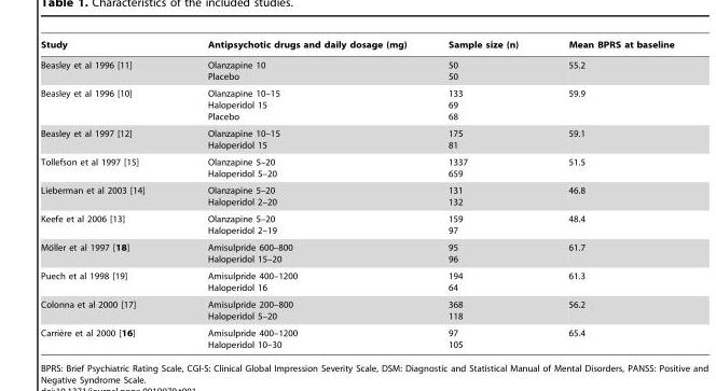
<table><thead><tr><td>Study</td><td>Antipsychotic drugs and daily dosage (mg)</td><td>Sample size (n)</td><td>Mean BPRS at baseline</td></tr></thead><tbody><tr><td>Beasley et al 1996 [11]</td><td>Olanzapine 10 Placebo</td><td>50 50</td><td>55.2</td></tr><tr><td>Beasley et al 1996 [10]</td><td>Olanzapine 10–15 Haloperidol 15 Placebo</td><td>133 69 68</td><td>59.9</td></tr><tr><td>Beasley et al 1997 [12]</td><td>Olanzapine 10–15 Haloperidol 15</td><td>175 81</td><td>59.1</td></tr><tr><td>Tollefson et al 1997 [15]</td><td>Olanzapine 5–20 Haloperidol 5–20</td><td>1337 659</td><td>51.5</td></tr><tr><td>Lieberman et al 2003 [14]</td><td>Olanzapine 5–20 Haloperidol 2–20</td><td>131 132</td><td>46.8</td></tr><tr><td>Keefe et al 2006 [13]</td><td>Olanzapine 5–20 Haloperidol 2–19</td><td>159 97</td><td>48.4</td></tr><tr><td>Mo¨ller et al 1997 [18]</td><td>Amisulpride 600–800 Haloperidol 15–20</td><td>95 96</td><td>61.7</td></tr><tr><td>Puech et al 1998 [19]</td><td>Amisulpride 400–1200 Haloperidol 16</td><td>194 64</td><td>61.3</td></tr><tr><td>Colonna et al 2000 [17]</td><td>Amisulpride 200–800 Haloperidol 5–20</td><td>368 118</td><td>56.2</td></tr><tr><td>Carrie`re et al 2000 [16]</td><td>Amisulpride 400–1200 Haloperidol 10–30</td><td>97 105</td><td>65.4</td></tr></tbody></table>